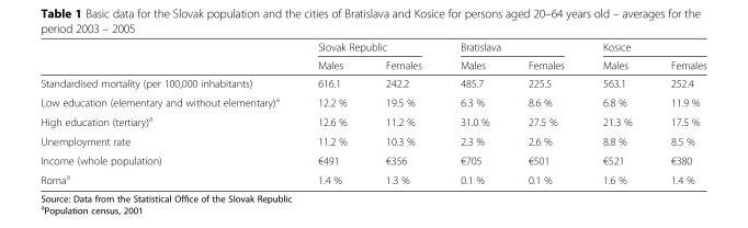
<table><thead><tr><td rowspan="2"></td><td colspan="2">Slovak Republic</td><td colspan="2">Bratislava</td><td colspan="2">Kosice</td></tr><tr><td>Males</td><td>Females</td><td>Males</td><td>Females</td><td>Males</td><td>Females</td></tr></thead><tbody><tr><td>Standardised mortality (per 100,000 inhabitants)</td><td>616.1</td><td>242.2</td><td>485.7</td><td>225.5</td><td>563.1</td><td>252.4</td></tr><tr><td>Low education (elementary and without elementary)<sup>a</sup></td><td>12.2 %</td><td>19.5 %</td><td>6.3 %</td><td>8.6 %</td><td>6.8 %</td><td>11.9 %</td></tr><tr><td>High education (tertiary)<sup>a</sup></td><td>12.6 %</td><td>11.2 %</td><td>31.0 %</td><td>27.5 %</td><td>21.3 %</td><td>17.5 %</td></tr><tr><td>Unemployment rate</td><td>11.2 %</td><td>10.3 %</td><td>2.3 %</td><td>2.6 %</td><td>8.8 %</td><td>8.5 %</td></tr><tr><td>Income (whole population)</td><td>€491</td><td>€356</td><td>€705</td><td>€501</td><td>€521</td><td>€380</td></tr><tr><td>Roma<sup>a</sup></td><td>1.4 %</td><td>1.3 %</td><td>0.1 %</td><td>0.1 %</td><td>1.6 %</td><td>1.4 %</td></tr></tbody></table>